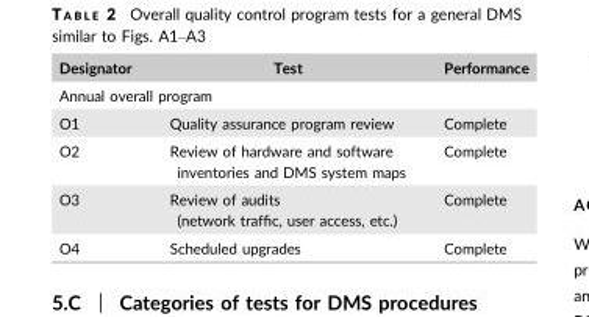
<table><thead><tr><td>Designator</td><td>Test</td><td>Performance</td></tr></thead><tbody><tr><td colspan="3">Annual overall program</td></tr><tr><td>O1</td><td>Quality assurance program review</td><td>Complete</td></tr><tr><td>O2</td><td>Review of hardware and software inventories and DMS system maps</td><td>Complete</td></tr><tr><td>O3</td><td>Review of audits (network traffic, user access, etc.)</td><td>Complete</td></tr><tr><td>O4</td><td>Scheduled upgrades</td><td>Complete</td></tr></tbody></table>